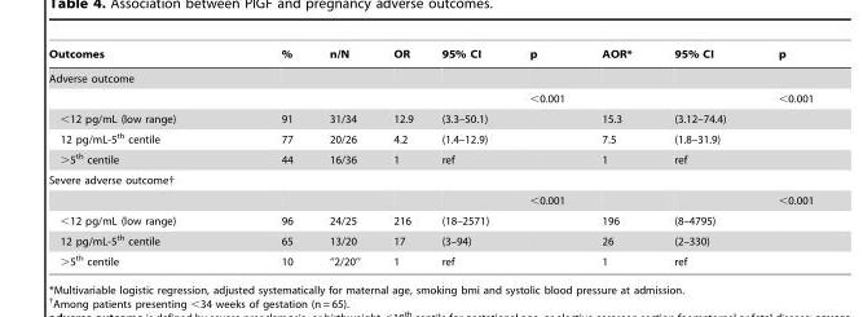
<table><thead><tr><td>Outcomes</td><td>%</td><td>n/N</td><td>OR</td><td>95% CI</td><td>p</td><td>AOR*</td><td>95% CI</td><td>p</td></tr></thead><tbody><tr><td colspan="9">Adverse outcome</td></tr><tr><td></td><td></td><td></td><td></td><td></td><td>&lt;0.001</td><td></td><td></td><td>&lt;0.001</td></tr><tr><td>&lt;12 pg/mL (low range)</td><td>91</td><td>31/34</td><td>12.9</td><td>(3.3–50.1)</td><td></td><td>15.3</td><td>(3.12–74.4)</td><td></td></tr><tr><td>12 pg/mL-5<sup>th</sup> centile</td><td>77</td><td>20/26</td><td>4.2</td><td>(1.4–12.9)</td><td></td><td>7.5</td><td>(1.8–31.9)</td><td></td></tr><tr><td>&gt;5<sup>th</sup> centile</td><td>44</td><td>16/36</td><td>1</td><td>ref</td><td></td><td>1</td><td>ref</td><td></td></tr><tr><td colspan="9">Severe adverse outcome†</td></tr><tr><td></td><td></td><td></td><td></td><td></td><td>&lt;0.001</td><td></td><td></td><td>&lt;0.001</td></tr><tr><td>&lt;12 pg/mL (low range)</td><td>96</td><td>24/25</td><td>216</td><td>(18–2571)</td><td></td><td>196</td><td>(8–4795)</td><td></td></tr><tr><td>12 pg/mL-5<sup>th</sup> centile</td><td>65</td><td>13/20</td><td>17</td><td>(3–94)</td><td></td><td>26</td><td>(2–330)</td><td></td></tr><tr><td>&gt;5<sup>th</sup> centile</td><td>10</td><td>‘‘2/20’’</td><td>1</td><td>ref</td><td></td><td>1</td><td>ref</td><td></td></tr></tbody></table>